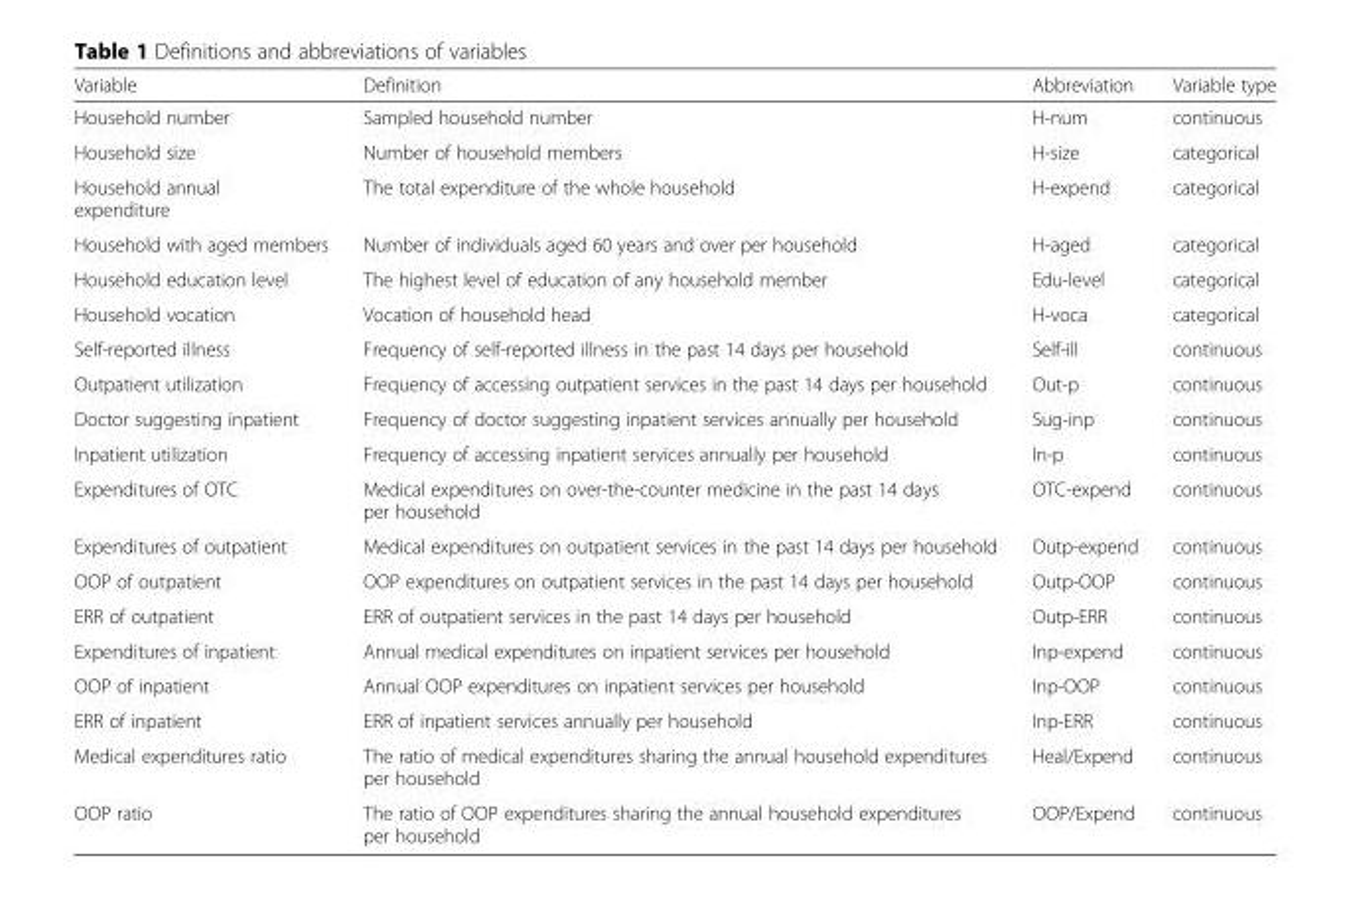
<table><thead><tr><td>Variable</td><td>Definition</td><td>Abbreviation</td><td>Variable type</td></tr></thead><tbody><tr><td>Household number</td><td>Sampled household number</td><td>H-num</td><td>continuous</td></tr><tr><td>Household size</td><td>Number of household members</td><td>H-size</td><td>categorical</td></tr><tr><td>Household annual expenditure</td><td>The total expenditure of the whole household</td><td>H-expend</td><td>categorical</td></tr><tr><td>Household with aged members</td><td>Number of individuals aged 60 years and over per household</td><td>H-aged</td><td>categorical</td></tr><tr><td>Household education level</td><td>The highest level of education of any household member</td><td>Edu-level</td><td>categorical</td></tr><tr><td>Household vocation</td><td>Vocation of household head</td><td>H-voca</td><td>categorical</td></tr><tr><td>Self-reported illness</td><td>Frequency of self-reported illness in the past 14 days per household</td><td>Self-ill</td><td>continuous</td></tr><tr><td>Outpatient utilization</td><td>Frequency of accessing outpatient services in the past 14 days per household</td><td>Out-p</td><td>continuous</td></tr><tr><td>Doctor suggesting inpatient</td><td>Frequency of doctor suggesting inpatient services annually per household</td><td>Sug-inp</td><td>continuous</td></tr><tr><td>Inpatient utilization</td><td>Frequency of accessing inpatient services annually per household</td><td>In-p</td><td>continuous</td></tr><tr><td>Expenditures of OTC</td><td>Medical expenditures on over-the-counter medicine in the past 14 days per household</td><td>OTC-expend</td><td>continuous</td></tr><tr><td>Expenditures of outpatient</td><td>Medical expenditures on outpatient services in the past 14 days per household</td><td>Outp-expend</td><td>continuous</td></tr><tr><td>OOP of outpatient</td><td>OOP expenditures on outpatient services in the past 14 days per household</td><td>Outp-OOP</td><td>continuous</td></tr><tr><td>ERR of outpatient</td><td>ERR of outpatient services in the past 14 days per household</td><td>Outp-ERR</td><td>continuous</td></tr><tr><td>Expenditures of inpatient</td><td>Annual medical expenditures on inpatient services per household</td><td>Inp-expend</td><td>continuous</td></tr><tr><td>OOP of inpatient</td><td>Annual OOP expenditures on inpatient services per household</td><td>Inp-OOP</td><td>continuous</td></tr><tr><td>ERR of inpatient</td><td>ERR of inpatient services annually per household</td><td>Inp-ERR</td><td>continuous</td></tr><tr><td>Medical expenditures ratio</td><td>The ratio of medical expenditures sharing the annual household expenditures per household</td><td>Heal/Expend</td><td>continuous</td></tr><tr><td>OOP ratio</td><td>The ratio of OOP expenditures sharing the annual household expenditures per household</td><td>OOP/Expend</td><td>continuous</td></tr></tbody></table>